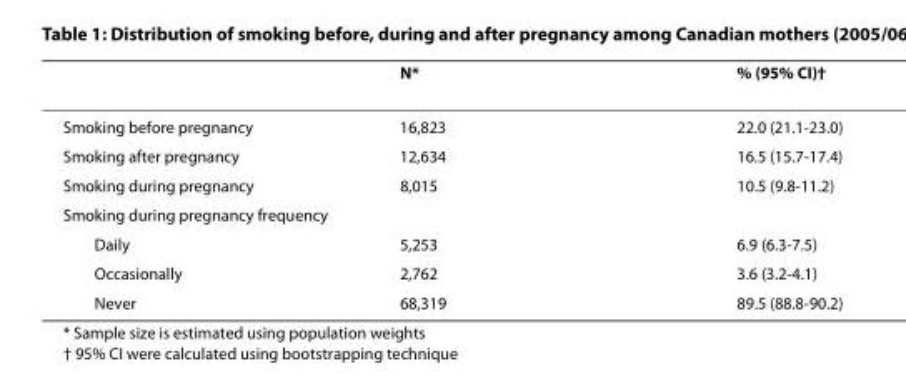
<table><thead><tr><td></td><td>N*</td><td>% (95% CI)†</td></tr></thead><tbody><tr><td>Smoking before pregnancy</td><td>16,823</td><td>22.0 (21.1-23.0)</td></tr><tr><td>Smoking after pregnancy</td><td>12,634</td><td>16.5 (15.7-17.4)</td></tr><tr><td>Smoking during pregnancy</td><td>8,015</td><td>10.5 (9.8-11.2)</td></tr><tr><td colspan="3">Smoking during pregnancy frequency</td></tr><tr><td>Daily</td><td>5,253</td><td>6.9 (6.3-7.5)</td></tr><tr><td>Occasionally</td><td>2,762</td><td>3.6 (3.2-4.1)</td></tr><tr><td>Never</td><td>68,319</td><td>89.5 (88.8-90.2)</td></tr></tbody></table>